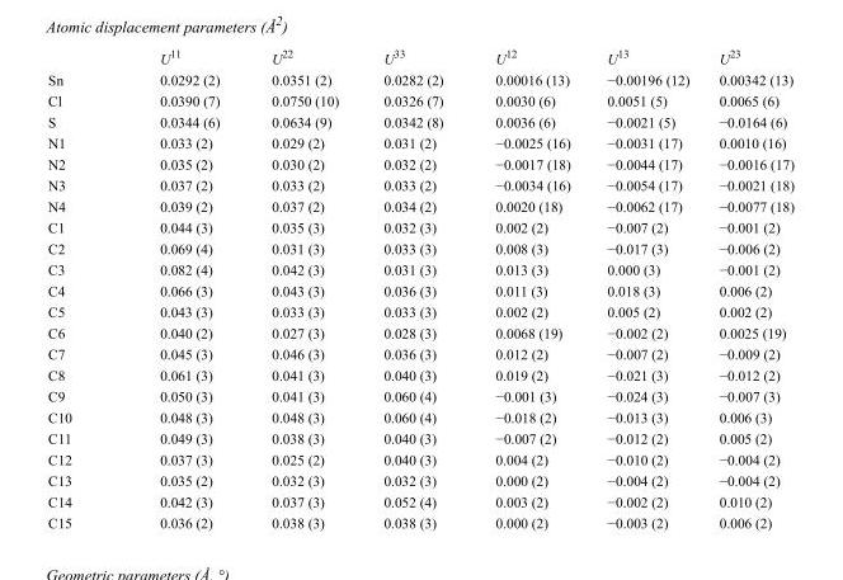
<table><thead><tr><td></td><td>U<sup>11</sup></td><td>U<sup>22</sup></td><td>U<sup>33</sup></td><td>U<sup>12</sup></td><td>U<sup>13</sup></td><td>U<sup>23</sup></td></tr></thead><tbody><tr><td>Sn</td><td>0.0292 (2)</td><td>0.0351 (2)</td><td>0.0282 (2)</td><td>0.00016 (13)</td><td>−0.00196 (12)</td><td>0.00342 (13)</td></tr><tr><td>Cl</td><td>0.0390 (7)</td><td>0.0750 (10)</td><td>0.0326 (7)</td><td>0.0030 (6)</td><td>0.0051 (5)</td><td>0.0065 (6)</td></tr><tr><td>S</td><td>0.0344 (6)</td><td>0.0634 (9)</td><td>0.0342 (8)</td><td>0.0036 (6)</td><td>−0.0021 (5)</td><td>−0.0164 (6)</td></tr><tr><td>N1</td><td>0.033 (2)</td><td>0.029 (2)</td><td>0.031 (2)</td><td>−0.0025 (16)</td><td>−0.0031 (17)</td><td>0.0010 (16)</td></tr><tr><td>N2</td><td>0.035 (2)</td><td>0.030 (2)</td><td>0.032 (2)</td><td>−0.0017 (18)</td><td>−0.0044 (17)</td><td>−0.0016 (17)</td></tr><tr><td>N3</td><td>0.037 (2)</td><td>0.033 (2)</td><td>0.033 (2)</td><td>−0.0034 (16)</td><td>−0.0054 (17)</td><td>−0.0021 (18)</td></tr><tr><td>N4</td><td>0.039 (2)</td><td>0.037 (2)</td><td>0.034 (2)</td><td>0.0020 (18)</td><td>−0.0062 (17)</td><td>−0.0077 (18)</td></tr><tr><td>C1</td><td>0.044 (3)</td><td>0.035 (3)</td><td>0.032 (3)</td><td>0.002 (2)</td><td>−0.007 (2)</td><td>−0.001 (2)</td></tr><tr><td>C2</td><td>0.069 (4)</td><td>0.031 (3)</td><td>0.033 (3)</td><td>0.008 (3)</td><td>−0.017 (3)</td><td>−0.006 (2)</td></tr><tr><td>C3</td><td>0.082 (4)</td><td>0.042 (3)</td><td>0.031 (3)</td><td>0.013 (3)</td><td>0.000 (3)</td><td>−0.001 (2)</td></tr><tr><td>C4</td><td>0.066 (3)</td><td>0.043 (3)</td><td>0.036 (3)</td><td>0.011 (3)</td><td>0.018 (3)</td><td>0.006 (2)</td></tr><tr><td>C5</td><td>0.043 (3)</td><td>0.033 (3)</td><td>0.033 (3)</td><td>0.002 (2)</td><td>0.005 (2)</td><td>0.002 (2)</td></tr><tr><td>C6</td><td>0.040 (2)</td><td>0.027 (3)</td><td>0.028 (3)</td><td>0.0068 (19)</td><td>−0.002 (2)</td><td>0.0025 (19)</td></tr><tr><td>C7</td><td>0.045 (3)</td><td>0.046 (3)</td><td>0.036 (3)</td><td>0.012 (2)</td><td>−0.007 (2)</td><td>−0.009 (2)</td></tr><tr><td>C8</td><td>0.061 (3)</td><td>0.041 (3)</td><td>0.040 (3)</td><td>0.019 (2)</td><td>−0.021 (3)</td><td>−0.012 (2)</td></tr><tr><td>C9</td><td>0.050 (3)</td><td>0.041 (3)</td><td>0.060 (4)</td><td>−0.001 (3)</td><td>−0.024 (3)</td><td>−0.007 (3)</td></tr><tr><td>C10</td><td>0.048 (3)</td><td>0.048 (3)</td><td>0.060 (4)</td><td>−0.018 (2)</td><td>−0.013 (3)</td><td>0.006 (3)</td></tr><tr><td>C11</td><td>0.049 (3)</td><td>0.038 (3)</td><td>0.040 (3)</td><td>−0.007 (2)</td><td>−0.012 (2)</td><td>0.005 (2)</td></tr><tr><td>C12</td><td>0.037 (3)</td><td>0.025 (2)</td><td>0.040 (3)</td><td>0.004 (2)</td><td>−0.010 (2)</td><td>−0.004 (2)</td></tr><tr><td>C13</td><td>0.035 (2)</td><td>0.032 (3)</td><td>0.032 (3)</td><td>0.000 (2)</td><td>−0.004 (2)</td><td>−0.004 (2)</td></tr><tr><td>C14</td><td>0.042 (3)</td><td>0.037 (3)</td><td>0.052 (4)</td><td>0.003 (2)</td><td>−0.002 (2)</td><td>0.010 (2)</td></tr><tr><td>C15</td><td>0.036 (2)</td><td>0.038 (3)</td><td>0.038 (3)</td><td>0.000 (2)</td><td>−0.003 (2)</td><td>0.006 (2)</td></tr></tbody></table>